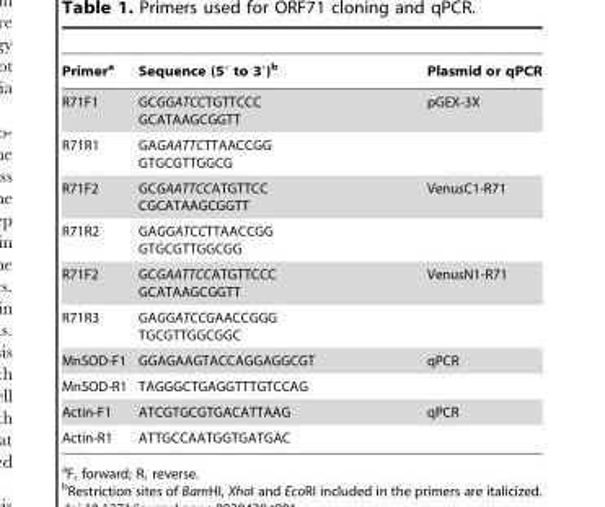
<table><thead><tr><td>Primer<sup>a</sup></td><td>Sequence (5′ to 3′)<sup>b</sup></td><td>Plasmid or qPCR</td></tr></thead><tbody><tr><td>R71F1</td><td>GCGGATCCTGTTCCC GCATAAGCGGTT</td><td>pGEX-3X</td></tr><tr><td>R71R1</td><td>GAGAATTCTTAACCGG GTGCGTTGGCG</td><td></td></tr><tr><td>R71F2</td><td>GCGAATTCCATGTTCC CGCATAAGCGGTT</td><td>VenusC1-R71</td></tr><tr><td>R71R2</td><td>GAGGATCCTTAACCGG GTGCGTTGGCGG</td><td></td></tr><tr><td>R71F2</td><td>GCGAATTCCATGTTCCC GCATAAGCGGTT</td><td>VenusN1-R71</td></tr><tr><td>R71R3</td><td>GAGGATCCGAACCGGG TGCGTTGGCGGC</td><td></td></tr><tr><td>MnSOD-F1</td><td>GGAGAAGTACCAGGAGGCGT</td><td>qPCR</td></tr><tr><td>MnSOD-R1</td><td>TAGGGCTGAGGTTTGTCCAG</td><td></td></tr><tr><td>Actin-F1</td><td>ATCGTGCGTGACATTAAG</td><td>qPCR</td></tr><tr><td>Actin-R1</td><td>ATTGCCAATGGTGATGAC</td><td></td></tr></tbody></table>